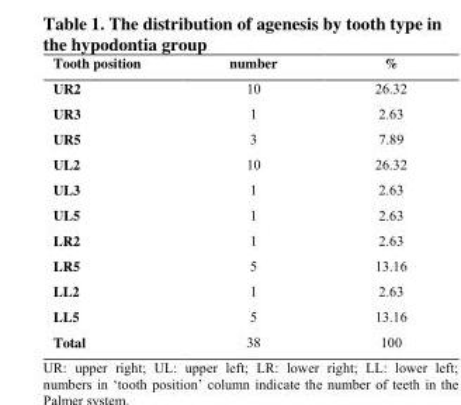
<table><tbody><tr><td>Tooth position</td><td>number</td><td>%</td></tr><tr><td>UR2</td><td>10</td><td>26.32</td></tr><tr><td>UR3</td><td>1</td><td>2.63</td></tr><tr><td>UR5</td><td>3</td><td>7.89</td></tr><tr><td>UL2</td><td>10</td><td>26.32</td></tr><tr><td>UL3</td><td>1</td><td>2.63</td></tr><tr><td>UL5</td><td>1</td><td>2.63</td></tr><tr><td>LR2</td><td>1</td><td>2.63</td></tr><tr><td>LR5</td><td>5</td><td>13.16</td></tr><tr><td>LL2</td><td>1</td><td>2.63</td></tr><tr><td>LL5</td><td>5</td><td>13.16</td></tr><tr><td>Total</td><td>38</td><td>100</td></tr></tbody></table>